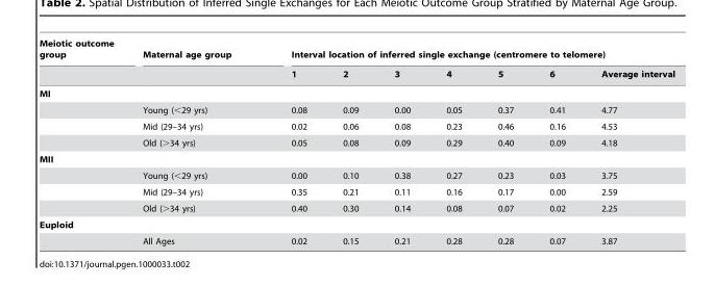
<table><thead><tr><td rowspan="2">Meiotic outcome group</td><td rowspan="2">Maternal age group</td><td colspan="7">Interval location of inferred single exchange (centromere to telomere)</td></tr><tr><td>1</td><td>2</td><td>3</td><td>4</td><td>5</td><td>6</td><td>Average interval</td></tr></thead><tbody><tr><td colspan="9">MI</td></tr><tr><td></td><td>Young (&lt;29 yrs)</td><td>0.08</td><td>0.09</td><td>0.00</td><td>0.05</td><td>0.37</td><td>0.41</td><td>4.77</td></tr><tr><td></td><td>Mid (29–34 yrs)</td><td>0.02</td><td>0.06</td><td>0.08</td><td>0.23</td><td>0.46</td><td>0.16</td><td>4.53</td></tr><tr><td></td><td>Old (&gt;34 yrs)</td><td>0.05</td><td>0.08</td><td>0.09</td><td>0.29</td><td>0.40</td><td>0.09</td><td>4.18</td></tr><tr><td colspan="9">MII</td></tr><tr><td></td><td>Young (&lt;29 yrs)</td><td>0.00</td><td>0.10</td><td>0.38</td><td>0.27</td><td>0.23</td><td>0.03</td><td>3.75</td></tr><tr><td></td><td>Mid (29–34 yrs)</td><td>0.35</td><td>0.21</td><td>0.11</td><td>0.16</td><td>0.17</td><td>0.00</td><td>2.59</td></tr><tr><td></td><td>Old (&gt;34 yrs)</td><td>0.40</td><td>0.30</td><td>0.14</td><td>0.08</td><td>0.07</td><td>0.02</td><td>2.25</td></tr><tr><td colspan="9">Euploid</td></tr><tr><td></td><td>All Ages</td><td>0.02</td><td>0.15</td><td>0.21</td><td>0.28</td><td>0.28</td><td>0.07</td><td>3.87</td></tr></tbody></table>